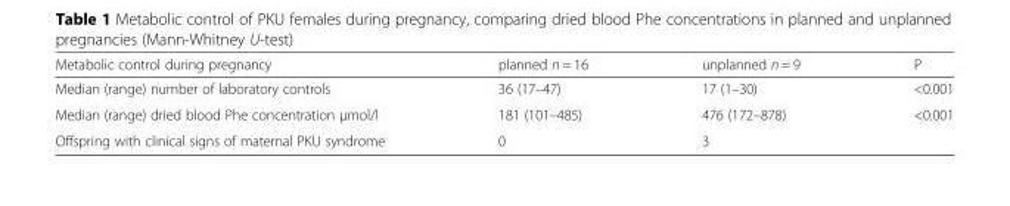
<table><thead><tr><td>Metabolic control during pregnancy</td><td>planned n = 16</td><td>unplanned n = 9</td><td>P</td></tr></thead><tbody><tr><td>Median (range) number of laboratory controls</td><td>36 (17–47)</td><td>17 (1–30)</td><td>&lt;0.001</td></tr><tr><td>Median (range) dried blood Phe concentration μmol/l</td><td>181 (101–485)</td><td>476 (172–878)</td><td>&lt;0.001</td></tr><tr><td>Offspring with clinical signs of maternal PKU syndrome</td><td>0</td><td>3</td><td></td></tr></tbody></table>